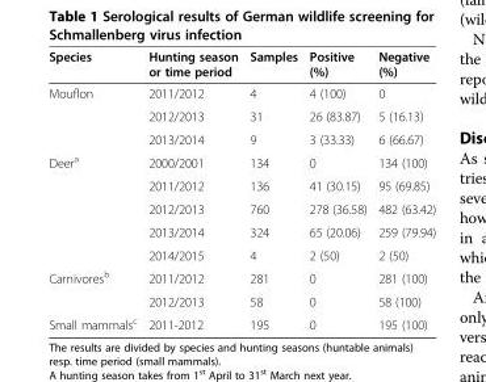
<table><thead><tr><td>Species</td><td>Hunting season or time period</td><td>Samples</td><td>Positive (%)</td><td>Negative (%)</td></tr></thead><tbody><tr><td rowspan="3">Mouflon</td><td>2011/2012</td><td>4</td><td>4 (100)</td><td>0</td></tr><tr><td>2012/2013</td><td>31</td><td>26 (83.87)</td><td>5 (16.13)</td></tr><tr><td>2013/2014</td><td>9</td><td>3 (33.33)</td><td>6 (66.67)</td></tr><tr><td rowspan="5">Deer<sup>a</sup></td><td>2000/2001</td><td>134</td><td>0</td><td>134 (100)</td></tr><tr><td>2011/2012</td><td>136</td><td>41 (30.15)</td><td>95 (69.85)</td></tr><tr><td>2012/2013</td><td>760</td><td>278 (36.58)</td><td>482 (63.42)</td></tr><tr><td>2013/2014</td><td>324</td><td>65 (20.06)</td><td>259 (79.94)</td></tr><tr><td>2014/2015</td><td>4</td><td>2 (50)</td><td>2 (50)</td></tr><tr><td rowspan="2">Carnivores<sup>b</sup></td><td>2011/2012</td><td>281</td><td>0</td><td>281 (100)</td></tr><tr><td>2012/2013</td><td>58</td><td>0</td><td>58 (100)</td></tr><tr><td>Small mammals<sup>c</sup></td><td>2011-2012</td><td>195</td><td>0</td><td>195 (100)</td></tr></tbody></table>